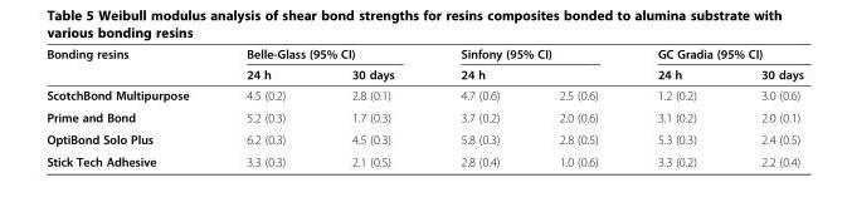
<table><thead><tr><td rowspan="2">Bonding resins</td><td colspan="2">Belle-Glass (95% CI)</td><td colspan="2">Sinfony (95% CI)</td><td colspan="2">GC Gradia (95% CI)</td></tr><tr><td>24 h</td><td>30 days</td><td>24 h</td><td></td><td>24 h</td><td>30 days</td></tr></thead><tbody><tr><td>ScotchBond Multipurpose</td><td>4.5 (0.2)</td><td>2.8 (0.1)</td><td>4.7 (0.6)</td><td>2.5 (0.6)</td><td>1.2 (0.2)</td><td>3.0 (0.6)</td></tr><tr><td>Prime and Bond</td><td>5.2 (0.3)</td><td>1.7 (0.3)</td><td>3.7 (0.2)</td><td>2.0 (0.6)</td><td>3.1 (0.2)</td><td>2.0 (0.1)</td></tr><tr><td>OptiBond Solo Plus</td><td>6.2 (0.3)</td><td>4.5 (0.3)</td><td>5.8 (0.3)</td><td>2.8 (0.5)</td><td>5.3 (0.3)</td><td>2.4 (0.5)</td></tr><tr><td>Stick Tech Adhesive</td><td>3.3 (0.3)</td><td>2.1 (0.5)</td><td>2.8 (0.4)</td><td>1.0 (0.6)</td><td>3.3 (0.2)</td><td>2.2 (0.4)</td></tr></tbody></table>